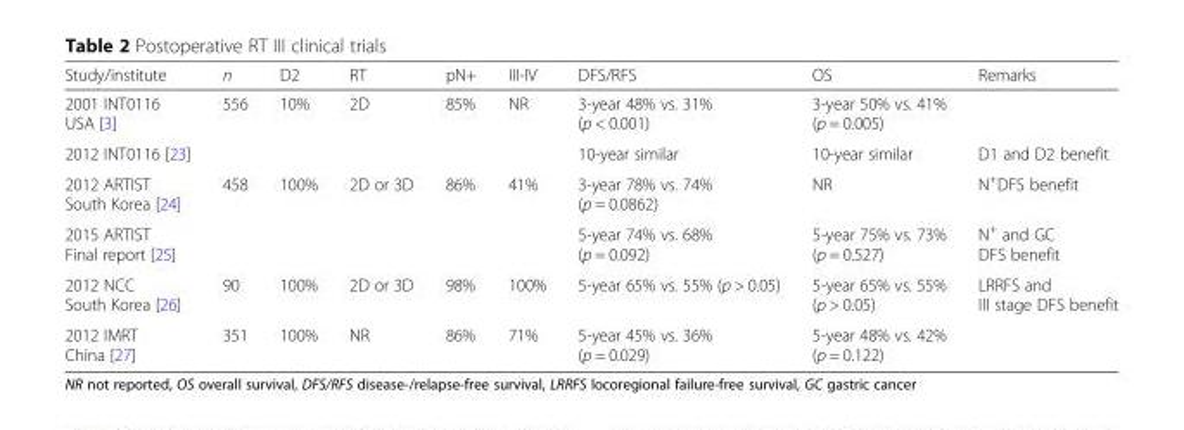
<table><thead><tr><td>Study/institute</td><td>n</td><td>D2</td><td>RT</td><td>pN+</td><td>III-IV</td><td>DFS/RFS</td><td>OS</td><td>Remarks</td></tr></thead><tbody><tr><td>2001 INT0116 USA [3]</td><td>556</td><td>10%</td><td>2D</td><td>85%</td><td>NR</td><td>3-year 48% vs. 31% (p &lt; 0.001)</td><td>3-year 50% vs. 41% (p = 0.005)</td><td></td></tr><tr><td>2012 INT0116 [23]</td><td></td><td></td><td></td><td></td><td></td><td>10-year similar</td><td>10-year similar</td><td>D1 and D2 benefit</td></tr><tr><td>2012 ARTIST South Korea [24]</td><td>458</td><td>100%</td><td>2D or 3D</td><td>86%</td><td>41%</td><td>3-year 78% vs. 74% (p = 0.0862)</td><td>NR</td><td>N<sup>+</sup>DFS benefit</td></tr><tr><td>2015 ARTIST Final report [25]</td><td></td><td></td><td></td><td></td><td></td><td>5-year 74% vs. 68% (p = 0.092)</td><td>5-year 75% vs. 73% (p = 0.527)</td><td>N<sup>+</sup> and GC DFS benefit</td></tr><tr><td>2012 NCC South Korea [26]</td><td>90</td><td>100%</td><td>2D or 3D</td><td>98%</td><td>100%</td><td>5-year 65% vs. 55% (p &gt; 0.05)</td><td>5-year 65% vs. 55% (p &gt; 0.05)</td><td>LRRFS and III stage DFS benefit</td></tr><tr><td>2012 IMRT China [27]</td><td>351</td><td>100%</td><td>NR</td><td>86%</td><td>71%</td><td>5-year 45% vs. 36% (p = 0.029)</td><td>5-year 48% vs. 42% (p = 0.122)</td><td></td></tr></tbody></table>